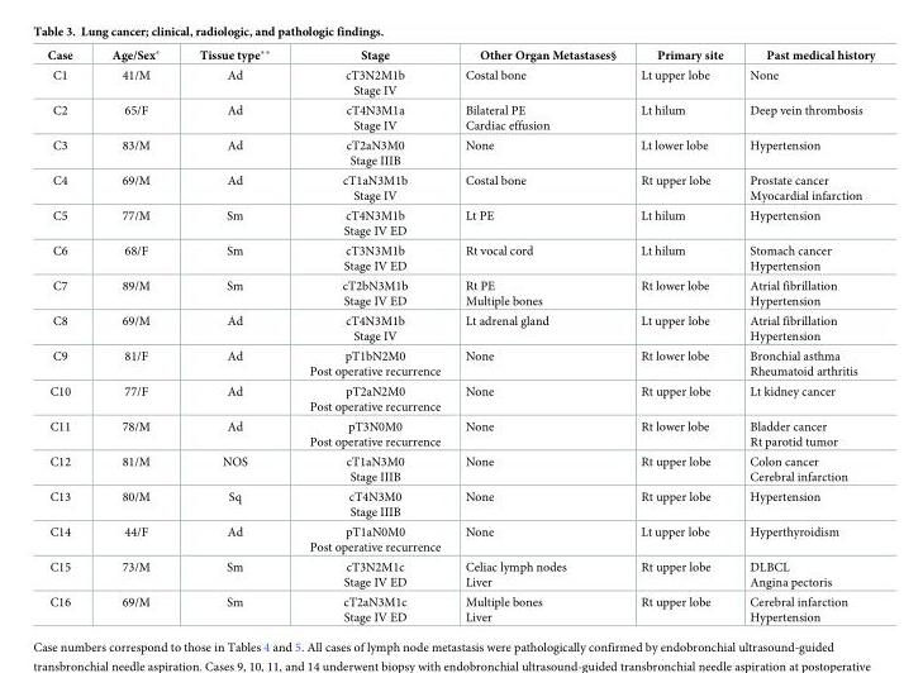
<table><thead><tr><td>Case</td><td>Age/Sex*</td><td>Tissue type**</td><td>Stage</td><td>Other Organ Metastases§</td><td>Primary site</td><td>Past medical history</td></tr></thead><tbody><tr><td>C1</td><td>41/M</td><td>Ad</td><td>cT3N2M1b Stage IV</td><td>Costal bone</td><td>Lt upper lobe</td><td>None</td></tr><tr><td>C2</td><td>65/F</td><td>Ad</td><td>cT4N3M1a Stage IV</td><td>Bilateral PE Cardiac effusion</td><td>Lt hilum</td><td>Deep vein thrombosis</td></tr><tr><td>C3</td><td>83/M</td><td>Ad</td><td>cT2aN3M0 Stage IIIB</td><td>None</td><td>Lt lower lobe</td><td>Hypertension</td></tr><tr><td>C4</td><td>69/M</td><td>Ad</td><td>cT1aN3M1b Stage IV</td><td>Costal bone</td><td>Rt upper lobe</td><td>Prostate cancer Myocardial infarction</td></tr><tr><td>C5</td><td>77/M</td><td>Sm</td><td>cT4N3M1b Stage IV ED</td><td>Lt PE</td><td>Lt hilum</td><td>Hypertension</td></tr><tr><td>C6</td><td>68/F</td><td>Sm</td><td>cT3N3M1b Stage IV ED</td><td>Rt vocal cord</td><td>Lt hilum</td><td>Stomach cancer Hypertension</td></tr><tr><td>C7</td><td>89/M</td><td>Sm</td><td>cT2bN3M1b Stage IV ED</td><td>Rt PE Multiple bones</td><td>Rt lower lobe</td><td>Atrial fibrillation Hypertension</td></tr><tr><td>C8</td><td>69/M</td><td>Ad</td><td>cT4N3M1b Stage IV</td><td>Lt adrenal gland</td><td>Lt upper lobe</td><td>Atrial fibrillation Hypertension</td></tr><tr><td>C9</td><td>81/F</td><td>Ad</td><td>pT1bN2M0 Post operative recurrence</td><td>None</td><td>Rt lower lobe</td><td>Bronchial asthma Rheumatoid arthritis</td></tr><tr><td>C10</td><td>77/F</td><td>Ad</td><td>pT2aN2M0 Post operative recurrence</td><td>None</td><td>Rt upper lobe</td><td>Lt kidney cancer</td></tr><tr><td>C11</td><td>78/M</td><td>Ad</td><td>pT3N0M0 Post operative recurrence</td><td>None</td><td>Rt lower lobe</td><td>Bladder cancer Rt parotid tumor</td></tr><tr><td>C12</td><td>81/M</td><td>NOS</td><td>cT1aN3M0 Stage IIIB</td><td>None</td><td>Rt upper lobe</td><td>Colon cancer Cerebral infarction</td></tr><tr><td>C13</td><td>80/M</td><td>Sq</td><td>cT4N3M0 Stage IIIB</td><td>None</td><td>Rt upper lobe</td><td>Hypertension</td></tr><tr><td>C14</td><td>44/F</td><td>Ad</td><td>pT1aN0M0 Post operative recurrence</td><td>None</td><td>Lt upper lobe</td><td>Hyperthyroidism</td></tr><tr><td>C15</td><td>73/M</td><td>Sm</td><td>cT3N2M1c Stage IV ED</td><td>Celiac lymph nodes Liver</td><td>Rt upper lobe</td><td>DLBCL Angina pectoris</td></tr><tr><td>C16</td><td>69/M</td><td>Sm</td><td>cT2aN3M1c Stage IV ED</td><td>Multiple bones Liver</td><td>Rt upper lobe</td><td>Cerebral infarction Hypertension</td></tr></tbody></table>